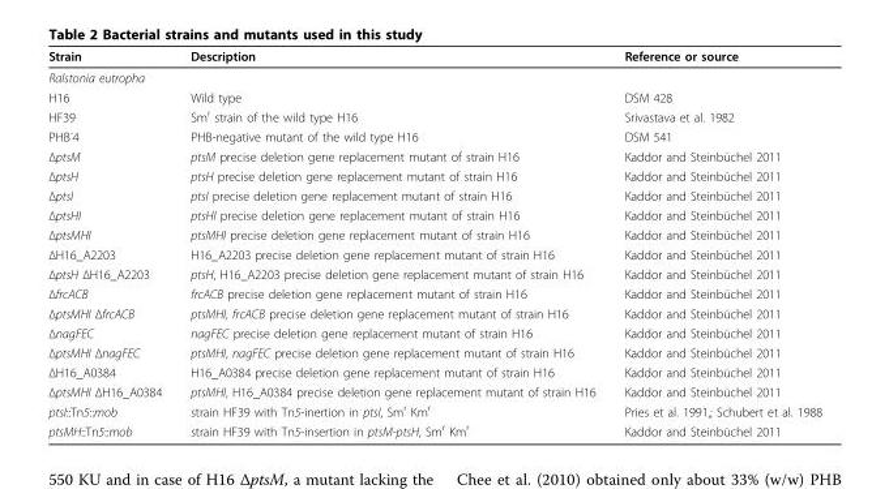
<table><thead><tr><td>Strain</td><td>Description</td><td>Reference or source</td></tr></thead><tbody><tr><td colspan="3">Ralstonia eutropha</td></tr><tr><td>H16</td><td>Wild type</td><td>DSM 428</td></tr><tr><td>HF39</td><td>Sm<sup>r</sup> strain of the wild type H16</td><td>Srivastava et al. 1982</td></tr><tr><td>PHB<sup>-</sup>4</td><td>PHB-negative mutant of the wild type H16</td><td>DSM 541</td></tr><tr><td>ΔptsM</td><td>ptsM precise deletion gene replacement mutant of strain H16</td><td>Kaddor and Steinbüchel 2011</td></tr><tr><td>ΔptsH</td><td>ptsH precise deletion gene replacement mutant of strain H16</td><td>Kaddor and Steinbüchel 2011</td></tr><tr><td>ΔptsI</td><td>ptsI precise deletion gene replacement mutant of strain H16</td><td>Kaddor and Steinbüchel 2011</td></tr><tr><td>ΔptsHI</td><td>ptsHI precise deletion gene replacement mutant of strain H16</td><td>Kaddor and Steinbüchel 2011</td></tr><tr><td>ΔptsMHI</td><td>ptsMHI precise deletion gene replacement mutant of strain H16</td><td>Kaddor and Steinbüchel 2011</td></tr><tr><td>ΔH16_A2203</td><td>H16_A2203 precise deletion gene replacement mutant of strain H16</td><td>Kaddor and Steinbüchel 2011</td></tr><tr><td>ΔptsH ΔH16_A2203</td><td>ptsH, H16_A2203 precise deletion gene replacement mutant of strain H16</td><td>Kaddor and Steinbüchel 2011</td></tr><tr><td>ΔfrcACB</td><td>frcACB precise deletion gene replacement mutant of strain H16</td><td>Kaddor and Steinbüchel 2011</td></tr><tr><td>ΔptsMHI ΔfrcACB</td><td>ptsMHI, frcACB precise deletion gene replacement mutant of strain H16</td><td>Kaddor and Steinbüchel 2011</td></tr><tr><td>ΔnagFEC</td><td>nagFEC precise deletion gene replacement mutant of strain H16</td><td>Kaddor and Steinbüchel 2011</td></tr><tr><td>ΔptsMHI ΔnagFEC</td><td>ptsMHI, nagFEC precise deletion gene replacement mutant of strain H16</td><td>Kaddor and Steinbüchel 2011</td></tr><tr><td>ΔH16_A0384</td><td>H16_A0384 precise deletion gene replacement mutant of strain H16</td><td>Kaddor and Steinbüchel 2011</td></tr><tr><td>ΔptsMHI ΔH16_A0384</td><td>ptsMHI, H16_A0384 precise deletion gene replacement mutant of strain H16</td><td>Kaddor and Steinbüchel 2011</td></tr><tr><td>ptsI::Tn5::mob</td><td>strain HF39 with Tn5-inertion in ptsI, Sm<sup>r</sup> Km<sup>r</sup></td><td>Pries et al. 1991,; Schubert et al. 1988</td></tr><tr><td>ptsMH::Tn5::mob</td><td>strain HF39 with Tn5-insertion in ptsM-ptsH, Sm<sup>r</sup> Km<sup>r</sup></td><td>Kaddor and Steinbüchel 2011</td></tr></tbody></table>